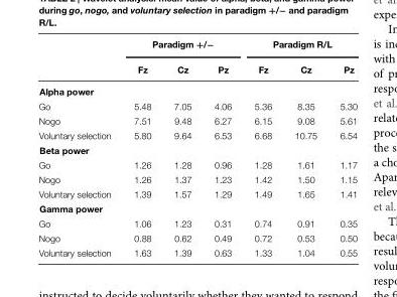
<table><thead><tr><td rowspan="2"></td><td colspan="3">Paradigm +/−</td><td colspan="3">Paradigm R/L</td></tr><tr><td>Fz</td><td>Cz</td><td>Pz</td><td>Fz</td><td>Cz</td><td>Pz</td></tr></thead><tbody><tr><td colspan="7">Alpha power</td></tr><tr><td>Go</td><td>5.48</td><td>7.05</td><td>4.06</td><td>5.36</td><td>8.35</td><td>5.30</td></tr><tr><td>Nogo</td><td>7.51</td><td>9.48</td><td>6.27</td><td>6.15</td><td>9.08</td><td>5.61</td></tr><tr><td>Voluntary selection</td><td>5.80</td><td>9.64</td><td>6.53</td><td>6.68</td><td>10.75</td><td>6.54</td></tr><tr><td colspan="7">Beta power</td></tr><tr><td>Go</td><td>1.26</td><td>1.28</td><td>0.96</td><td>1.28</td><td>1.61</td><td>1.17</td></tr><tr><td>Nogo</td><td>1.26</td><td>1.37</td><td>1.23</td><td>1.42</td><td>1.50</td><td>1.15</td></tr><tr><td>Voluntary selection</td><td>1.39</td><td>1.57</td><td>1.29</td><td>1.49</td><td>1.65</td><td>1.41</td></tr><tr><td colspan="7">Gamma power</td></tr><tr><td>Go</td><td>1.06</td><td>1.23</td><td>0.31</td><td>0.74</td><td>0.91</td><td>0.35</td></tr><tr><td>Nogo</td><td>0.88</td><td>0.62</td><td>0.49</td><td>0.72</td><td>0.53</td><td>0.50</td></tr><tr><td>Voluntary selection</td><td>1.63</td><td>1.39</td><td>0.63</td><td>1.33</td><td>1.04</td><td>0.55</td></tr></tbody></table>